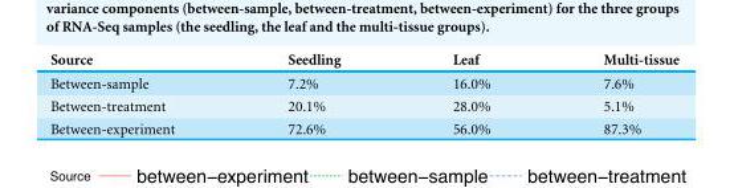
<table><thead><tr><td>Source</td><td>Seedling</td><td>Leaf</td><td>Multi-tissue</td></tr></thead><tbody><tr><td>Between-sample</td><td>7.2%</td><td>16.0%</td><td>7.6%</td></tr><tr><td>Between-treatment</td><td>20.1%</td><td>28.0%</td><td>5.1%</td></tr><tr><td>Between-experiment</td><td>72.6%</td><td>56.0%</td><td>87.3%</td></tr></tbody></table>